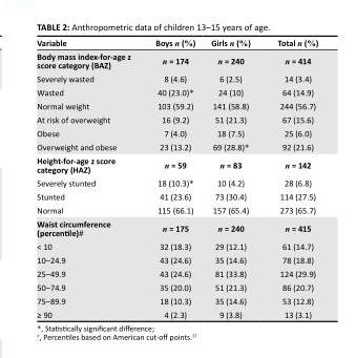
<table><thead><tr><td>Variable</td><td>Boys n (%)</td><td>Girls n (%)</td><td>Total n (%)</td></tr></thead><tbody><tr><td>Body mass index-for-age z score category (BAZ)</td><td>n = 174</td><td>n = 240</td><td>n = 414</td></tr><tr><td>Severely wasted</td><td>8 (4.6)</td><td>6 (2.5)</td><td>14 (3.4)</td></tr><tr><td>Wasted</td><td>40 (23.0)*</td><td>24 (10)</td><td>64 (14.9)</td></tr><tr><td>Normal weight</td><td>103 (59.2)</td><td>141 (58.8)</td><td>244 (56.7)</td></tr><tr><td>At risk of overweight</td><td>16 (9.2)</td><td>51 (21.3)</td><td>67 (15.6)</td></tr><tr><td>Obese</td><td>7 (4.0)</td><td>18 (7.5)</td><td>25 (6.0)</td></tr><tr><td>Overweight and obese</td><td>23 (13.2)</td><td>69 (28.8)*</td><td>92 (21.6)</td></tr><tr><td>Height-for-age z score category (HAZ)</td><td>n = 59</td><td>n = 83</td><td>n = 142</td></tr><tr><td>Severely stunted</td><td>18 (10.3)*</td><td>10 (4.2)</td><td>28 (6.8)</td></tr><tr><td>Stunted</td><td>41 (23.6)</td><td>73 (30.4)</td><td>114 (27.5)</td></tr><tr><td>Normal</td><td>115 (66.1)</td><td>157 (65.4)</td><td>273 (65.7)</td></tr><tr><td>Waist circumference (percentile)#</td><td>n = 175</td><td>n = 240</td><td>n = 415</td></tr><tr><td>&lt; 10</td><td>32 (18.3)</td><td>29 (12.1)</td><td>61 (14.7)</td></tr><tr><td>10–24.9</td><td>43 (24.6)</td><td>35 (14.6)</td><td>78 (18.8)</td></tr><tr><td>25–49.9</td><td>43 (24.6)</td><td>81 (33.8)</td><td>124 (29.9)</td></tr><tr><td>50–74.9</td><td>35 (20.0)</td><td>51 (21.3)</td><td>86 (20.7)</td></tr><tr><td>75–89.9</td><td>18 (10.3)</td><td>35 (14.6)</td><td>53 (12.8)</td></tr><tr><td>≥ 90</td><td>4 (2.3)</td><td>9 (3.8)</td><td>13 (3.1)</td></tr></tbody></table>